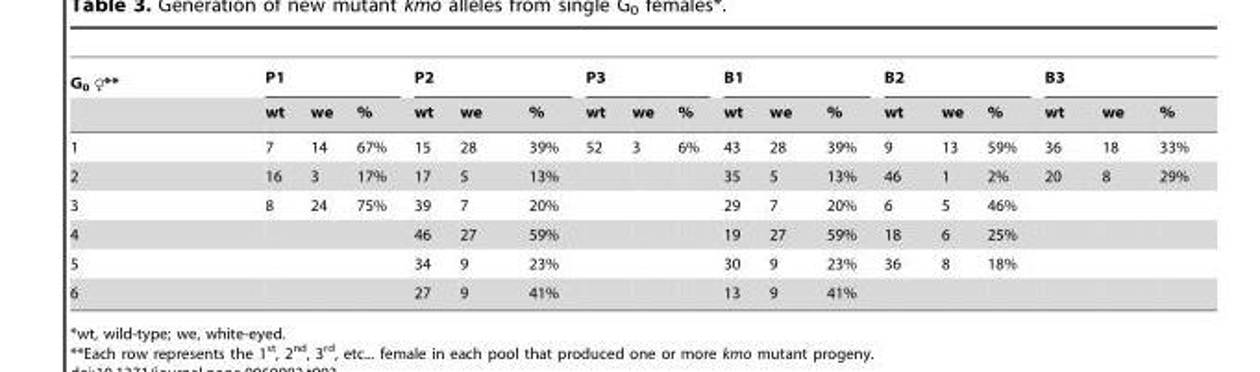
<table><thead><tr><td rowspan="2">G<sub>0</sub> ♀**</td><td colspan="3">P1</td><td colspan="3">P2</td><td colspan="3">P3</td><td colspan="3">B1</td><td colspan="3">B2</td><td colspan="3">B3</td></tr><tr><td>wt</td><td>we</td><td>%</td><td>wt</td><td>we</td><td>%</td><td>wt</td><td>we</td><td>%</td><td>wt</td><td>we</td><td>%</td><td>wt</td><td>we</td><td>%</td><td>wt</td><td>we</td><td>%</td></tr></thead><tbody><tr><td>1</td><td>7</td><td>14</td><td>67%</td><td>15</td><td>28</td><td>39%</td><td>52</td><td>3</td><td>6%</td><td>43</td><td>28</td><td>39%</td><td>9</td><td>13</td><td>59%</td><td>36</td><td>18</td><td>33%</td></tr><tr><td>2</td><td>16</td><td>3</td><td>17%</td><td>17</td><td>5</td><td>13%</td><td></td><td></td><td></td><td>35</td><td>5</td><td>13%</td><td>46</td><td>1</td><td>2%</td><td>20</td><td>8</td><td>29%</td></tr><tr><td>3</td><td>8</td><td>24</td><td>75%</td><td>39</td><td>7</td><td>20%</td><td></td><td></td><td></td><td>29</td><td>7</td><td>20%</td><td>6</td><td>5</td><td>46%</td><td></td><td></td><td></td></tr><tr><td>4</td><td></td><td></td><td></td><td>46</td><td>27</td><td>59%</td><td></td><td></td><td></td><td>19</td><td>27</td><td>59%</td><td>18</td><td>6</td><td>25%</td><td></td><td></td><td></td></tr><tr><td>5</td><td></td><td></td><td></td><td>34</td><td>9</td><td>23%</td><td></td><td></td><td></td><td>30</td><td>9</td><td>23%</td><td>36</td><td>8</td><td>18%</td><td></td><td></td><td></td></tr><tr><td>6</td><td></td><td></td><td></td><td>27</td><td>9</td><td>41%</td><td></td><td></td><td></td><td>13</td><td>9</td><td>41%</td><td></td><td></td><td></td><td></td><td></td><td></td></tr></tbody></table>